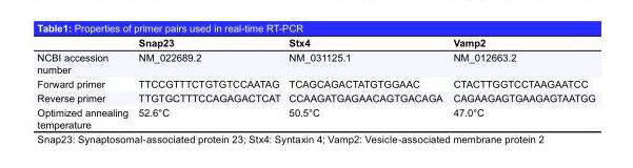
<table><thead><tr><td></td><td>Snap23</td><td>Stx4</td><td>Vamp2</td></tr></thead><tbody><tr><td>NCBI accession number</td><td>NM_022689.2</td><td>NM_031125.1</td><td>NM_012663.2</td></tr><tr><td>Forward primer</td><td>TTCCGTTTCTGTGTCCAATAG</td><td>TCAGCAGACTATGTGGAAC</td><td>CTACTTGGTCCTAAGAATCC</td></tr><tr><td>Reverse primer</td><td>TTGTGCTTTCCAGAGACTCAT</td><td>CCAAGATGAGAACAGTGACAGA</td><td>CAGAAGAGTGAAGAGTAATGG</td></tr><tr><td>Optimized annealing temperature</td><td>52.6°C</td><td>50.5°C</td><td>47.0°C</td></tr></tbody></table>